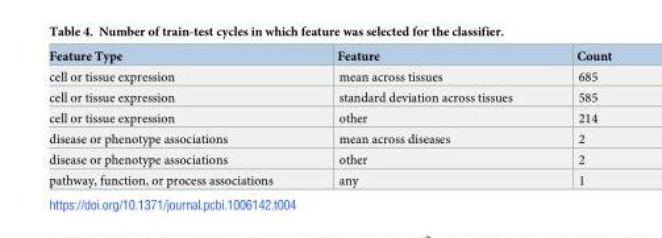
<table><thead><tr><td>Feature Type</td><td>Feature</td><td>Count</td></tr></thead><tbody><tr><td>cell or tissue expression</td><td>mean across tissues</td><td>685</td></tr><tr><td>cell or tissue expression</td><td>standard deviation across tissues</td><td>585</td></tr><tr><td>cell or tissue expression</td><td>other</td><td>214</td></tr><tr><td>disease or phenotype associations</td><td>mean across diseases</td><td>2</td></tr><tr><td>disease or phenotype associations</td><td>other</td><td>2</td></tr><tr><td>pathway, function, or process associations</td><td>any</td><td>1</td></tr></tbody></table>